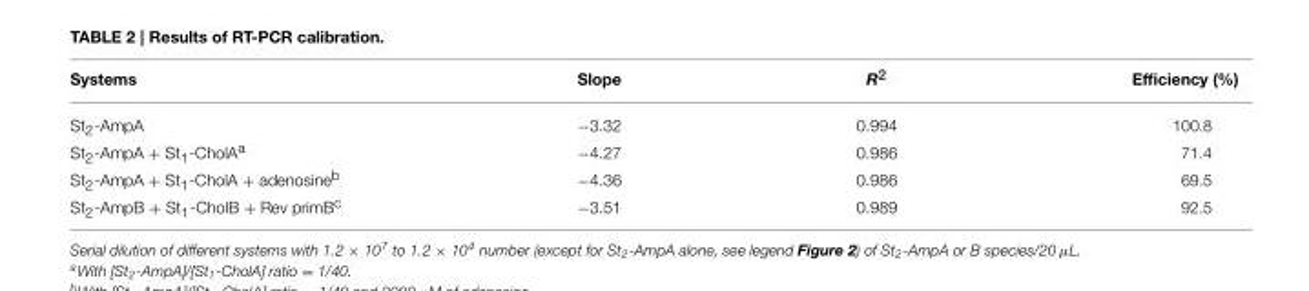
<table><thead><tr><td>Systems</td><td>Slope</td><td>R<sup>2</sup></td><td>Efficiency (%)</td></tr></thead><tbody><tr><td>St<sub>2</sub>-AmpA</td><td>−3.32</td><td>0.994</td><td>100.8</td></tr><tr><td>St<sub>2</sub>-AmpA + St<sub>1</sub>-CholA<sup>a</sup></td><td>−4.27</td><td>0.986</td><td>71.4</td></tr><tr><td>St<sub>2</sub>-AmpA + St<sub>1</sub>-CholA + adenosine<sup>b</sup></td><td>−4.36</td><td>0.986</td><td>69.5</td></tr><tr><td>St<sub>2</sub>-AmpB + St<sub>1</sub>-CholB + Rev primB<sup>c</sup></td><td>−3.51</td><td>0.989</td><td>92.5</td></tr></tbody></table>